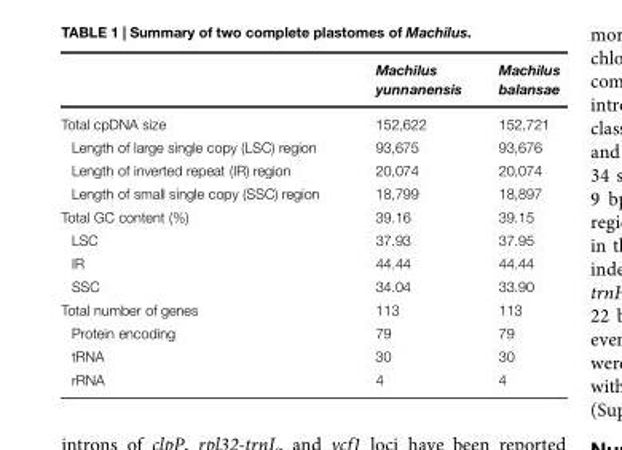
<table><thead><tr><td></td><td>Machilus yunnanensis</td><td>Machilus balansae</td></tr></thead><tbody><tr><td>Total cpDNA size</td><td>152,622</td><td>152,721</td></tr><tr><td>Length of large single copy (LSC) region</td><td>93,675</td><td>93,676</td></tr><tr><td>Length of inverted repeat (IR) region</td><td>20,074</td><td>20,074</td></tr><tr><td>Length of small single copy (SSC) region</td><td>18,799</td><td>18,897</td></tr><tr><td>Total GC content (%)</td><td>39.16</td><td>39.15</td></tr><tr><td>LSC</td><td>37.93</td><td>37.95</td></tr><tr><td>IR</td><td>44.44</td><td>44.44</td></tr><tr><td>SSC</td><td>34.04</td><td>33.90</td></tr><tr><td>Total number of genes</td><td>113</td><td>113</td></tr><tr><td>Protein encoding</td><td>79</td><td>79</td></tr><tr><td>tRNA</td><td>30</td><td>30</td></tr><tr><td>rRNA</td><td>4</td><td>4</td></tr></tbody></table>